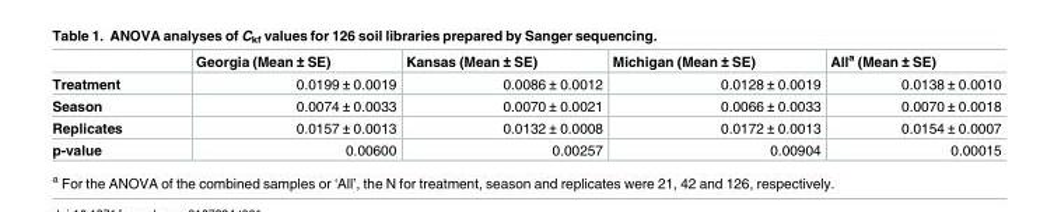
<table><thead><tr><td></td><td>Georgia (Mean ± SE)</td><td>Kansas (Mean ± SE)</td><td>Michigan (Mean ± SE)</td><td>All<sup>a</sup> (Mean ± SE)</td></tr></thead><tbody><tr><td>Treatment</td><td>0.0199 ± 0.0019</td><td>0.0086 ± 0.0012</td><td>0.0128 ± 0.0019</td><td>0.0138 ± 0.0010</td></tr><tr><td>Season</td><td>0.0074 ± 0.0033</td><td>0.0070 ± 0.0021</td><td>0.0066 ± 0.0033</td><td>0.0070 ± 0.0018</td></tr><tr><td>Replicates</td><td>0.0157 ± 0.0013</td><td>0.0132 ± 0.0008</td><td>0.0172 ± 0.0013</td><td>0.0154 ± 0.0007</td></tr><tr><td>p-value</td><td>0.00600</td><td>0.00257</td><td>0.00904</td><td>0.00015</td></tr></tbody></table>